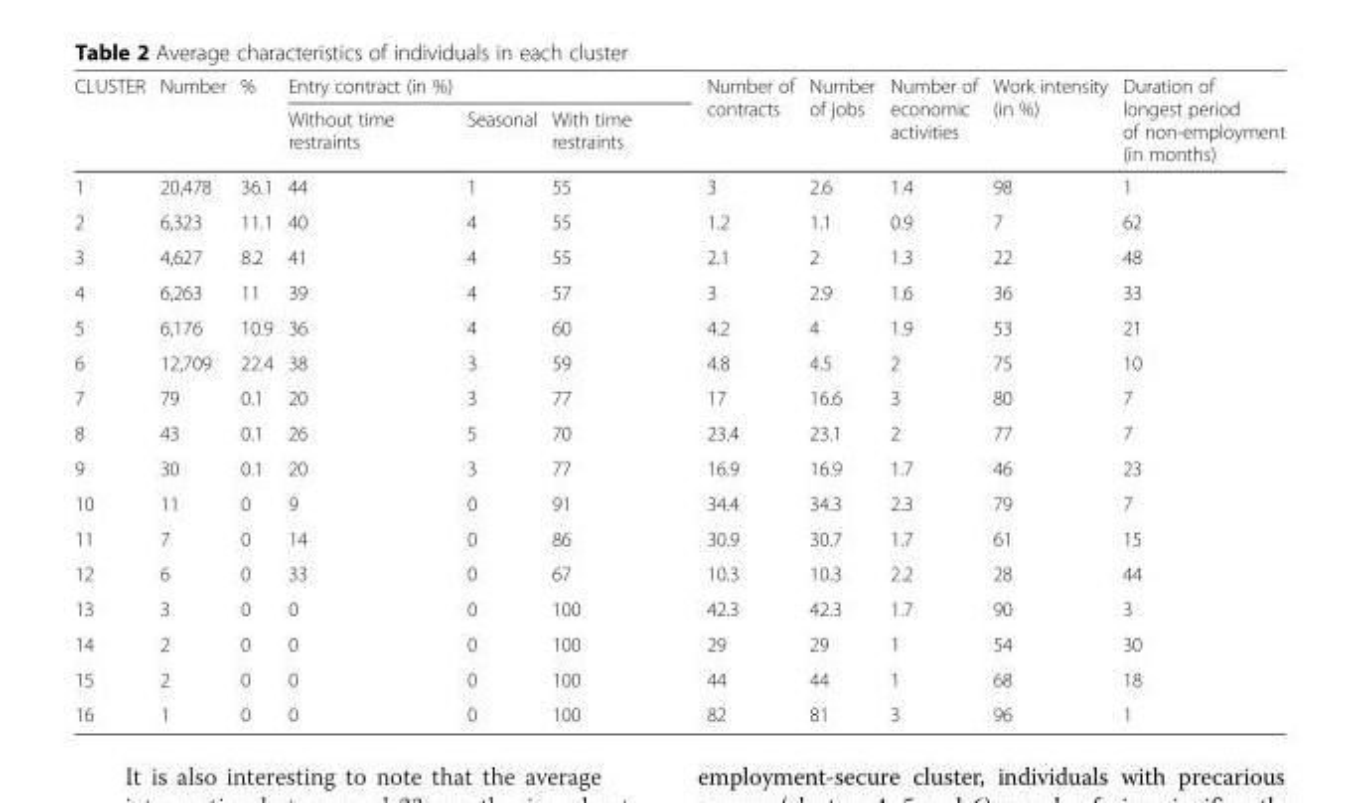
<table><thead><tr><td rowspan="2">CLUSTER</td><td rowspan="2">Number</td><td rowspan="2">%</td><td colspan="3">Entry contract (in %)</td><td rowspan="2">Number of contracts</td><td rowspan="2">Number of jobs</td><td rowspan="2">Number of economic activities</td><td rowspan="2">Work intensity (in %)</td><td rowspan="2">Duration of longest period of non-employment (in months)</td></tr><tr><td>Without time restraints</td><td>Seasonal</td><td>With time restraints</td></tr></thead><tbody><tr><td>1</td><td>20,478</td><td>36.1</td><td>44</td><td>1</td><td>55</td><td>3</td><td>2.6</td><td>1.4</td><td>98</td><td>1</td></tr><tr><td>2</td><td>6,323</td><td>11.1</td><td>40</td><td>4</td><td>55</td><td>1.2</td><td>1.1</td><td>0.9</td><td>7</td><td>62</td></tr><tr><td>3</td><td>4,627</td><td>8.2</td><td>41</td><td>4</td><td>55</td><td>2.1</td><td>2</td><td>1.3</td><td>22</td><td>48</td></tr><tr><td>4</td><td>6,263</td><td>11</td><td>39</td><td>4</td><td>57</td><td>3</td><td>2.9</td><td>1.6</td><td>36</td><td>33</td></tr><tr><td>5</td><td>6,176</td><td>10.9</td><td>36</td><td>4</td><td>60</td><td>4.2</td><td>4</td><td>1.9</td><td>53</td><td>21</td></tr><tr><td>6</td><td>12,709</td><td>22.4</td><td>38</td><td>3</td><td>59</td><td>4.8</td><td>4.5</td><td>2</td><td>75</td><td>10</td></tr><tr><td>7</td><td>79</td><td>0.1</td><td>20</td><td>3</td><td>77</td><td>17</td><td>16.6</td><td>3</td><td>80</td><td>7</td></tr><tr><td>8</td><td>43</td><td>0.1</td><td>26</td><td>5</td><td>70</td><td>23.4</td><td>23.1</td><td>2</td><td>77</td><td>7</td></tr><tr><td>9</td><td>30</td><td>0.1</td><td>20</td><td>3</td><td>77</td><td>16.9</td><td>16.9</td><td>1.7</td><td>46</td><td>23</td></tr><tr><td>10</td><td>11</td><td>0</td><td>9</td><td>0</td><td>91</td><td>34.4</td><td>34.3</td><td>2.3</td><td>79</td><td>7</td></tr><tr><td>11</td><td>7</td><td>0</td><td>14</td><td>0</td><td>86</td><td>30.9</td><td>30.7</td><td>1.7</td><td>61</td><td>15</td></tr><tr><td>12</td><td>6</td><td>0</td><td>33</td><td>0</td><td>67</td><td>10.3</td><td>10.3</td><td>2.2</td><td>28</td><td>44</td></tr><tr><td>13</td><td>3</td><td>0</td><td>0</td><td>0</td><td>100</td><td>42.3</td><td>42.3</td><td>1.7</td><td>90</td><td>3</td></tr><tr><td>14</td><td>2</td><td>0</td><td>0</td><td>0</td><td>100</td><td>29</td><td>29</td><td>1</td><td>54</td><td>30</td></tr><tr><td>15</td><td>2</td><td>0</td><td>0</td><td>0</td><td>100</td><td>44</td><td>44</td><td>1</td><td>68</td><td>18</td></tr><tr><td>16</td><td>1</td><td>0</td><td>0</td><td>0</td><td>100</td><td>82</td><td>81</td><td>3</td><td>96</td><td>1</td></tr></tbody></table>